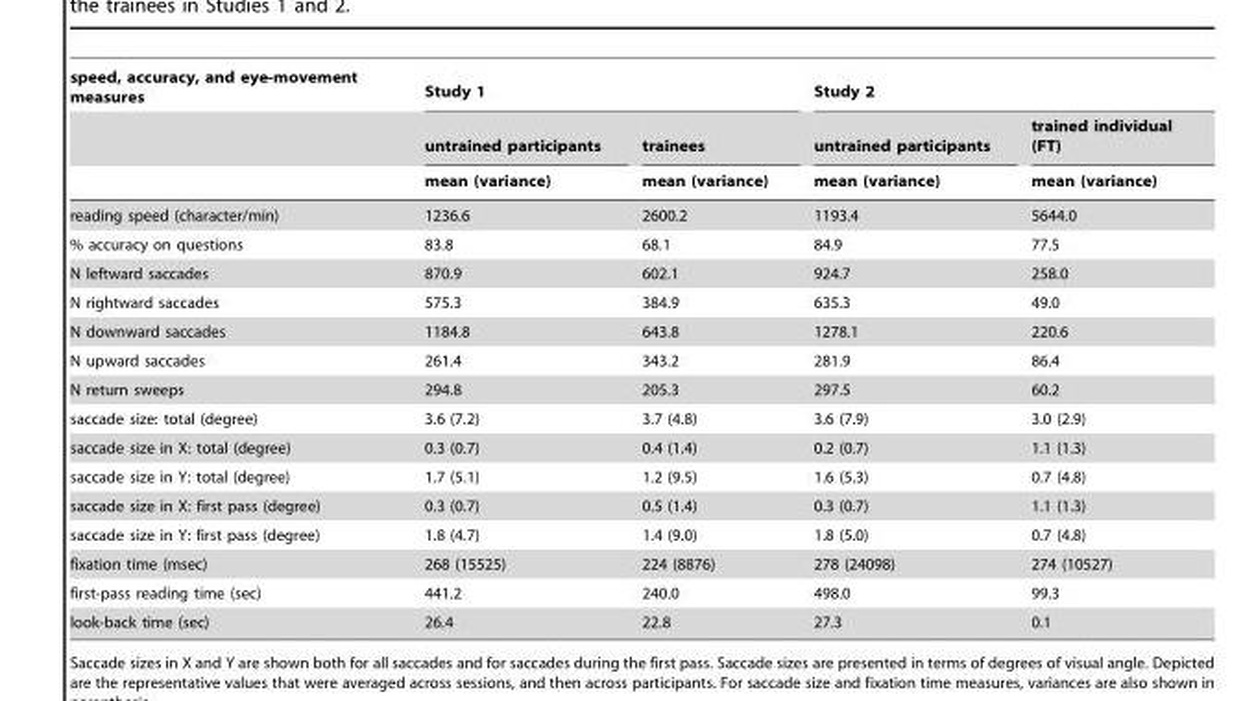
<table><thead><tr><td rowspan="3">speed, accuracy, and eye-movement measures</td><td colspan="2">Study 1</td><td colspan="2">Study 2</td></tr><tr><td rowspan="2">untrained participants mean (variance)</td><td rowspan="2">trainees mean (variance)</td><td rowspan="2">untrained participants mean (variance)</td><td rowspan="2">trained individual (FT) mean (variance)</td></tr><tr></tr></thead><tbody><tr><td>reading speed (character/min)</td><td>1236.6</td><td>2600.2</td><td>1193.4</td><td>5644.0</td></tr><tr><td>% accuracy on questions</td><td>83.8</td><td>68.1</td><td>84.9</td><td>77.5</td></tr><tr><td>N leftward saccades</td><td>870.9</td><td>602.1</td><td>924.7</td><td>258.0</td></tr><tr><td>N rightward saccades</td><td>575.3</td><td>384.9</td><td>635.3</td><td>49.0</td></tr><tr><td>N downward saccades</td><td>1184.8</td><td>643.8</td><td>1278.1</td><td>220.6</td></tr><tr><td>N upward saccades</td><td>261.4</td><td>343.2</td><td>281.9</td><td>86.4</td></tr><tr><td>N return sweeps</td><td>294.8</td><td>205.3</td><td>297.5</td><td>60.2</td></tr><tr><td>saccade size: total (degree)</td><td>3.6 (7.2)</td><td>3.7 (4.8)</td><td>3.6 (7.9)</td><td>3.0 (2.9)</td></tr><tr><td>saccade size in X: total (degree)</td><td>0.3 (0.7)</td><td>0.4 (1.4)</td><td>0.2 (0.7)</td><td>1.1 (1.3)</td></tr><tr><td>saccade size in Y: total (degree)</td><td>1.7 (5.1)</td><td>1.2 (9.5)</td><td>1.6 (5.3)</td><td>0.7 (4.8)</td></tr><tr><td>saccade size in X: first pass (degree)</td><td>0.3 (0.7)</td><td>0.5 (1.4)</td><td>0.3 (0.7)</td><td>1.1 (1.3)</td></tr><tr><td>saccade size in Y: first pass (degree)</td><td>1.8 (4.7)</td><td>1.4 (9.0)</td><td>1.8 (5.0)</td><td>0.7 (4.8)</td></tr><tr><td>fixation time (msec)</td><td>268 (15525)</td><td>224 (8876)</td><td>278 (24098)</td><td>274 (10527)</td></tr><tr><td>first-pass reading time (sec)</td><td>441.2</td><td>240.0</td><td>498.0</td><td>99.3</td></tr><tr><td>look-back time (sec)</td><td>26.4</td><td>22.8</td><td>27.3</td><td>0.1</td></tr></tbody></table>